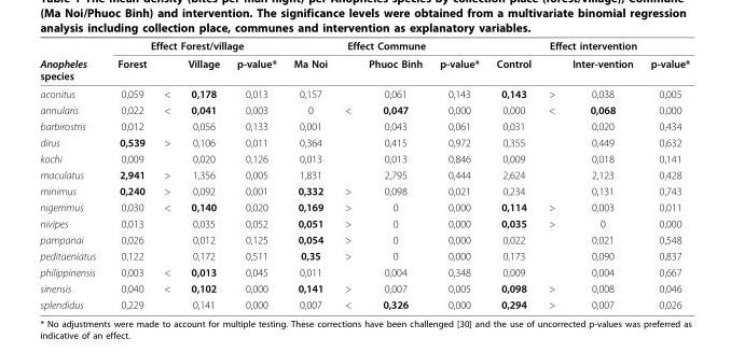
<table><thead><tr><td rowspan="2">Anopheles species</td><td colspan="4">Effect Forest/village</td><td colspan="4">Effect Commune</td><td colspan="4">Effect intervention</td></tr><tr><td>Forest</td><td></td><td>Village</td><td>p-value*</td><td>Ma Noi</td><td></td><td>Phuoc Binh</td><td>p-value*</td><td>Control</td><td></td><td>Inter-vention</td><td>p-value*</td></tr></thead><tbody><tr><td>aconitus</td><td>0,059</td><td>&lt;</td><td>0,178</td><td>0,013</td><td>0,157</td><td></td><td>0,061</td><td>0,143</td><td>0,143</td><td>&gt;</td><td>0,038</td><td>0,005</td></tr><tr><td>annularis</td><td>0,022</td><td>&lt;</td><td>0,041</td><td>0,003</td><td>0</td><td>&lt;</td><td>0,047</td><td>0,000</td><td>0,000</td><td>&lt;</td><td>0,068</td><td>0,000</td></tr><tr><td>barbirostris</td><td>0,012</td><td></td><td>0,056</td><td>0,133</td><td>0,001</td><td></td><td>0,043</td><td>0,061</td><td>0,031</td><td></td><td>0,020</td><td>0,434</td></tr><tr><td>dirus</td><td>0,539</td><td>&gt;</td><td>0,106</td><td>0,011</td><td>0,364</td><td></td><td>0,415</td><td>0,972</td><td>0,355</td><td></td><td>0,449</td><td>0,632</td></tr><tr><td>kochi</td><td>0,009</td><td></td><td>0,020</td><td>0,126</td><td>0,013</td><td></td><td>0,013</td><td>0,846</td><td>0,009</td><td></td><td>0,018</td><td>0,141</td></tr><tr><td>maculatus</td><td>2,941</td><td>&gt;</td><td>1,356</td><td>0,005</td><td>1,831</td><td></td><td>2,795</td><td>0,444</td><td>2,624</td><td></td><td>2,123</td><td>0,428</td></tr><tr><td>minimus</td><td>0,240</td><td>&gt;</td><td>0,092</td><td>0,001</td><td>0,332</td><td>&gt;</td><td>0,098</td><td>0,021</td><td>0,234</td><td></td><td>0,131</td><td>0,743</td></tr><tr><td>nigerrimus</td><td>0,030</td><td>&lt;</td><td>0,140</td><td>0,020</td><td>0,169</td><td>&gt;</td><td>0</td><td>0,000</td><td>0,114</td><td>&gt;</td><td>0,003</td><td>0,011</td></tr><tr><td>nivipes</td><td>0,013</td><td></td><td>0,035</td><td>0,052</td><td>0,051</td><td>&gt;</td><td>0</td><td>0,000</td><td>0,035</td><td>&gt;</td><td>0</td><td>0,000</td></tr><tr><td>pampanai</td><td>0,026</td><td></td><td>0,012</td><td>0,125</td><td>0,054</td><td>&gt;</td><td>0</td><td>0,000</td><td>0,022</td><td></td><td>0,021</td><td>0,548</td></tr><tr><td>peditaeniatus</td><td>0,122</td><td></td><td>0,172</td><td>0,511</td><td>0,35</td><td>&gt;</td><td>0</td><td>0,000</td><td>0,173</td><td></td><td>0,090</td><td>0,837</td></tr><tr><td>philippinensis</td><td>0,003</td><td>&lt;</td><td>0,013</td><td>0,045</td><td>0,011</td><td></td><td>0,004</td><td>0,348</td><td>0,009</td><td></td><td>0,004</td><td>0,667</td></tr><tr><td>sinensis</td><td>0,040</td><td>&lt;</td><td>0,102</td><td>0,000</td><td>0,141</td><td>&gt;</td><td>0,007</td><td>0,005</td><td>0,098</td><td>&gt;</td><td>0,008</td><td>0,046</td></tr><tr><td>splendidus</td><td>0,229</td><td></td><td>0,141</td><td>0,000</td><td>0,007</td><td>&lt;</td><td>0,326</td><td>0,000</td><td>0,294</td><td>&gt;</td><td>0,007</td><td>0,026</td></tr></tbody></table>